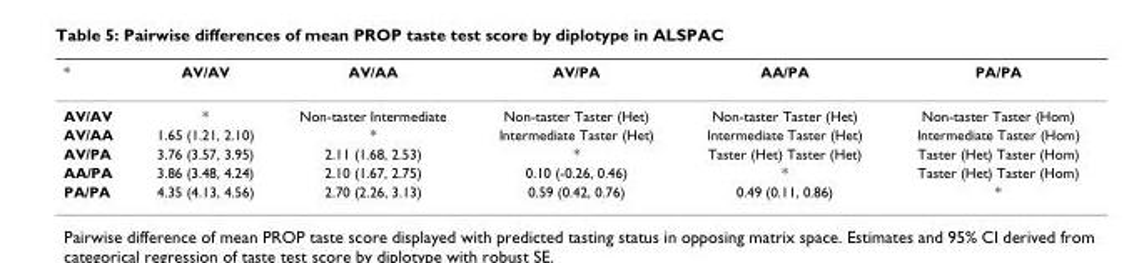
<table><thead><tr><td>*</td><td>AV/AV</td><td>AV/AA</td><td>AV/PA</td><td>AA/PA</td><td>PA/PA</td></tr></thead><tbody><tr><td>AV/AV</td><td>*</td><td>Non-taster Intermediate</td><td>Non-taster Taster (Het)</td><td>Non-taster Taster (Het)</td><td>Non-taster Taster (Hom)</td></tr><tr><td>AV/AA</td><td>1.65 (1.21, 2.10)</td><td>*</td><td>Intermediate Taster (Het)</td><td>Intermediate Taster (Het)</td><td>Intermediate Taster (Hom)</td></tr><tr><td>AV/PA</td><td>3.76 (3.57, 3.95)</td><td>2.11 (1.68, 2.53)</td><td>*</td><td>Taster (Het) Taster (Het)</td><td>Taster (Het) Taster (Hom)</td></tr><tr><td>AA/PA</td><td>3.86 (3.48, 4.24)</td><td>2.10 (1.67, 2.75)</td><td>0.10 (-0.26, 0.46)</td><td>*</td><td>Taster (Het) Taster (Hom)</td></tr><tr><td>PA/PA</td><td>4.35 (4.13, 4.56)</td><td>2.70 (2.26, 3.13)</td><td>0.59 (0.42, 0.76)</td><td>0.49 (0.11, 0.86)</td><td>*</td></tr></tbody></table>